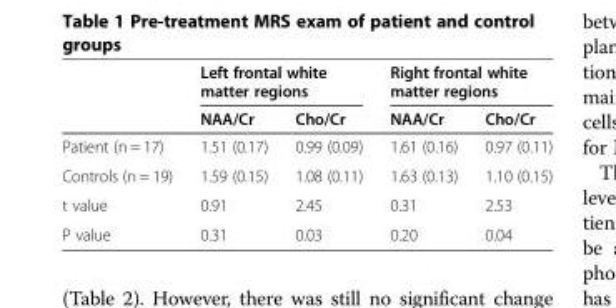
<table><thead><tr><td rowspan="2"></td><td colspan="2">Left frontal white matter regions</td><td colspan="2">Right frontal white matter regions</td></tr><tr><td>NAA/Cr</td><td>Cho/Cr</td><td>NAA/Cr</td><td>Cho/Cr</td></tr></thead><tbody><tr><td>Patient (n = 17)</td><td>1.51 (0.17)</td><td>0.99 (0.09)</td><td>1.61 (0.16)</td><td>0.97 (0.11)</td></tr><tr><td>Controls (n = 19)</td><td>1.59 (0.15)</td><td>1.08 (0.11)</td><td>1.63 (0.13)</td><td>1.10 (0.15)</td></tr><tr><td>t value</td><td>0.91</td><td>2.45</td><td>0.31</td><td>2.53</td></tr><tr><td>P value</td><td>0.31</td><td>0.03</td><td>0.20</td><td>0.04</td></tr></tbody></table>